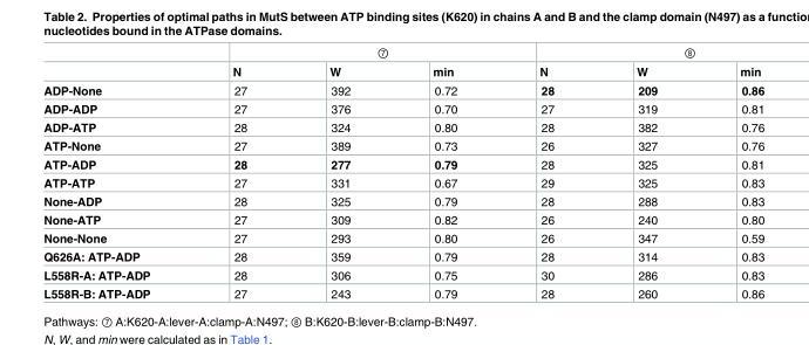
<table><thead><tr><td rowspan="2"></td><td colspan="3">⑦</td><td colspan="3">⑧</td></tr><tr><td>N</td><td>W</td><td>min</td><td>N</td><td>W</td><td>min</td></tr></thead><tbody><tr><td>ADP-None</td><td>27</td><td>392</td><td>0.72</td><td>28</td><td>209</td><td>0.86</td></tr><tr><td>ADP-ADP</td><td>27</td><td>376</td><td>0.70</td><td>27</td><td>319</td><td>0.81</td></tr><tr><td>ADP-ATP</td><td>28</td><td>324</td><td>0.80</td><td>28</td><td>382</td><td>0.76</td></tr><tr><td>ATP-None</td><td>27</td><td>389</td><td>0.73</td><td>26</td><td>327</td><td>0.76</td></tr><tr><td>ATP-ADP</td><td>28</td><td>277</td><td>0.79</td><td>28</td><td>325</td><td>0.81</td></tr><tr><td>ATP-ATP</td><td>27</td><td>331</td><td>0.67</td><td>29</td><td>325</td><td>0.83</td></tr><tr><td>None-ADP</td><td>28</td><td>325</td><td>0.79</td><td>28</td><td>288</td><td>0.83</td></tr><tr><td>None-ATP</td><td>27</td><td>309</td><td>0.82</td><td>26</td><td>240</td><td>0.80</td></tr><tr><td>None-None</td><td>27</td><td>293</td><td>0.80</td><td>26</td><td>347</td><td>0.59</td></tr><tr><td>Q626A: ATP-ADP</td><td>28</td><td>359</td><td>0.79</td><td>28</td><td>314</td><td>0.83</td></tr><tr><td>L558R-A: ATP-ADP</td><td>28</td><td>306</td><td>0.75</td><td>30</td><td>286</td><td>0.83</td></tr><tr><td>L558R-B: ATP-ADP</td><td>27</td><td>243</td><td>0.79</td><td>28</td><td>260</td><td>0.86</td></tr></tbody></table>